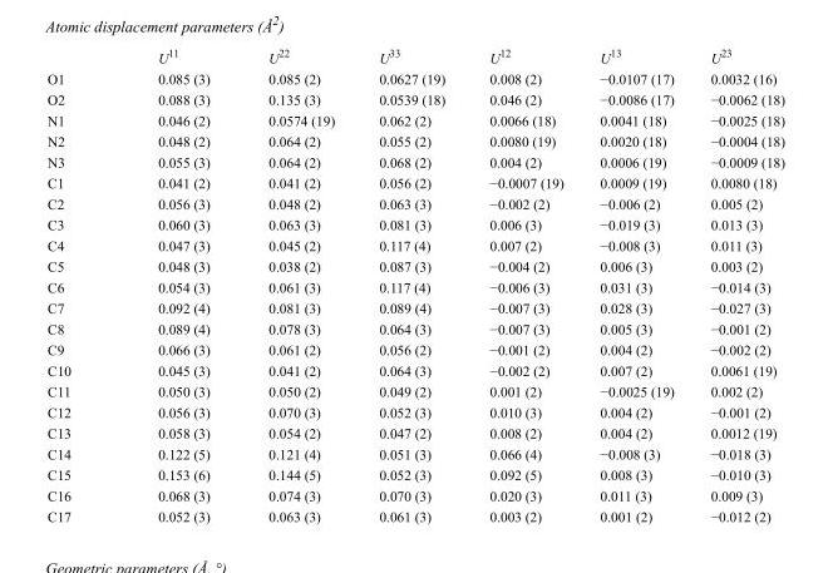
<table><thead><tr><td></td><td>U<sup>11</sup></td><td>U<sup>22</sup></td><td>U<sup>33</sup></td><td>U<sup>12</sup></td><td>U<sup>13</sup></td><td>U<sup>23</sup></td></tr></thead><tbody><tr><td>O1</td><td>0.085 (3)</td><td>0.085 (2)</td><td>0.0627 (19)</td><td>0.008 (2)</td><td>−0.0107 (17)</td><td>0.0032 (16)</td></tr><tr><td>O2</td><td>0.088 (3)</td><td>0.135 (3)</td><td>0.0539 (18)</td><td>0.046 (2)</td><td>−0.0086 (17)</td><td>−0.0062 (18)</td></tr><tr><td>N1</td><td>0.046 (2)</td><td>0.0574 (19)</td><td>0.062 (2)</td><td>0.0066 (18)</td><td>0.0041 (18)</td><td>−0.0025 (18)</td></tr><tr><td>N2</td><td>0.048 (2)</td><td>0.064 (2)</td><td>0.055 (2)</td><td>0.0080 (19)</td><td>0.0020 (18)</td><td>−0.0004 (18)</td></tr><tr><td>N3</td><td>0.055 (3)</td><td>0.064 (2)</td><td>0.068 (2)</td><td>0.004 (2)</td><td>0.0006 (19)</td><td>−0.0009 (18)</td></tr><tr><td>C1</td><td>0.041 (2)</td><td>0.041 (2)</td><td>0.056 (2)</td><td>−0.0007 (19)</td><td>0.0009 (19)</td><td>0.0080 (18)</td></tr><tr><td>C2</td><td>0.056 (3)</td><td>0.048 (2)</td><td>0.063 (3)</td><td>−0.002 (2)</td><td>−0.006 (2)</td><td>0.005 (2)</td></tr><tr><td>C3</td><td>0.060 (3)</td><td>0.063 (3)</td><td>0.081 (3)</td><td>0.006 (3)</td><td>−0.019 (3)</td><td>0.013 (3)</td></tr><tr><td>C4</td><td>0.047 (3)</td><td>0.045 (2)</td><td>0.117 (4)</td><td>0.007 (2)</td><td>−0.008 (3)</td><td>0.011 (3)</td></tr><tr><td>C5</td><td>0.048 (3)</td><td>0.038 (2)</td><td>0.087 (3)</td><td>−0.004 (2)</td><td>0.006 (3)</td><td>0.003 (2)</td></tr><tr><td>C6</td><td>0.054 (3)</td><td>0.061 (3)</td><td>0.117 (4)</td><td>−0.006 (3)</td><td>0.031 (3)</td><td>−0.014 (3)</td></tr><tr><td>C7</td><td>0.092 (4)</td><td>0.081 (3)</td><td>0.089 (4)</td><td>−0.007 (3)</td><td>0.028 (3)</td><td>−0.027 (3)</td></tr><tr><td>C8</td><td>0.089 (4)</td><td>0.078 (3)</td><td>0.064 (3)</td><td>−0.007 (3)</td><td>0.005 (3)</td><td>−0.001 (2)</td></tr><tr><td>C9</td><td>0.066 (3)</td><td>0.061 (2)</td><td>0.056 (2)</td><td>−0.001 (2)</td><td>0.004 (2)</td><td>−0.002 (2)</td></tr><tr><td>C10</td><td>0.045 (3)</td><td>0.041 (2)</td><td>0.064 (3)</td><td>−0.002 (2)</td><td>0.007 (2)</td><td>0.0061 (19)</td></tr><tr><td>C11</td><td>0.050 (3)</td><td>0.050 (2)</td><td>0.049 (2)</td><td>0.001 (2)</td><td>−0.0025 (19)</td><td>0.002 (2)</td></tr><tr><td>C12</td><td>0.056 (3)</td><td>0.070 (3)</td><td>0.052 (3)</td><td>0.010 (3)</td><td>0.004 (2)</td><td>−0.001 (2)</td></tr><tr><td>C13</td><td>0.058 (3)</td><td>0.054 (2)</td><td>0.047 (2)</td><td>0.008 (2)</td><td>0.004 (2)</td><td>0.0012 (19)</td></tr><tr><td>C14</td><td>0.122 (5)</td><td>0.121 (4)</td><td>0.051 (3)</td><td>0.066 (4)</td><td>−0.008 (3)</td><td>−0.018 (3)</td></tr><tr><td>C15</td><td>0.153 (6)</td><td>0.144 (5)</td><td>0.052 (3)</td><td>0.092 (5)</td><td>0.008 (3)</td><td>−0.010 (3)</td></tr><tr><td>C16</td><td>0.068 (3)</td><td>0.074 (3)</td><td>0.070 (3)</td><td>0.020 (3)</td><td>0.011 (3)</td><td>0.009 (3)</td></tr><tr><td>C17</td><td>0.052 (3)</td><td>0.063 (3)</td><td>0.061 (3)</td><td>0.003 (2)</td><td>0.001 (2)</td><td>−0.012 (2)</td></tr></tbody></table>